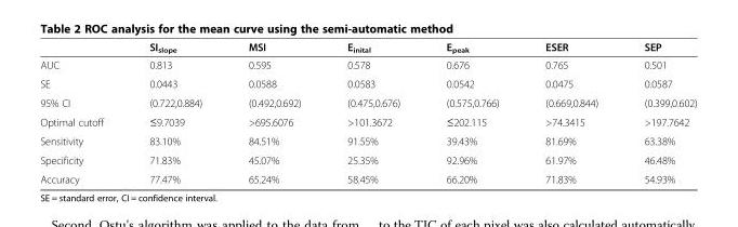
<table><thead><tr><td></td><td>SI<sub>slope</sub></td><td>MSI</td><td>E<sub>inital</sub></td><td>E<sub>peak</sub></td><td>ESER</td><td>SEP</td></tr></thead><tbody><tr><td>AUC</td><td>0.813</td><td>0.595</td><td>0.578</td><td>0.676</td><td>0.765</td><td>0.501</td></tr><tr><td>SE</td><td>0.0443</td><td>0.0588</td><td>0.0583</td><td>0.0542</td><td>0.0475</td><td>0.0587</td></tr><tr><td>95% CI</td><td>(0.722,0.884)</td><td>(0.492,0.692)</td><td>(0.475,0.676)</td><td>(0.575,0.766)</td><td>(0.669,0.844)</td><td>(0.399,0.602)</td></tr><tr><td>Optimal cutoff</td><td>≤9.7039</td><td>&gt;695.6076</td><td>&gt;101.3672</td><td>≤202.115</td><td>&gt;74.3415</td><td>&gt;197.7642</td></tr><tr><td>Sensitivity</td><td>83.10%</td><td>84.51%</td><td>91.55%</td><td>39.43%</td><td>81.69%</td><td>63.38%</td></tr><tr><td>Specificity</td><td>71.83%</td><td>45.07%</td><td>25.35%</td><td>92.96%</td><td>61.97%</td><td>46.48%</td></tr><tr><td>Accuracy</td><td>77.47%</td><td>65.24%</td><td>58.45%</td><td>66.20%</td><td>71.83%</td><td>54.93%</td></tr></tbody></table>